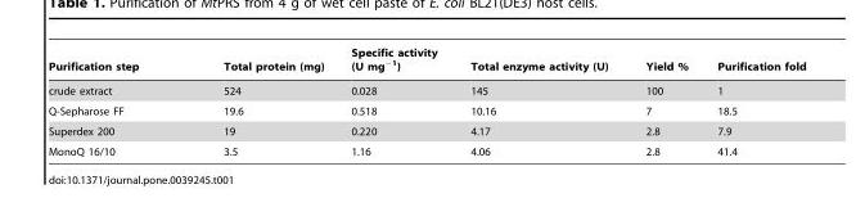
<table><thead><tr><td>Purification step</td><td>Total protein (mg)</td><td>Specific activity (U mg<sup>−1</sup>)</td><td>Total enzyme activity (U)</td><td>Yield %</td><td>Purification fold</td></tr></thead><tbody><tr><td>crude extract</td><td>524</td><td>0.028</td><td>145</td><td>100</td><td>1</td></tr><tr><td>Q-Sepharose FF</td><td>19.6</td><td>0.518</td><td>10.16</td><td>7</td><td>18.5</td></tr><tr><td>Superdex 200</td><td>19</td><td>0.220</td><td>4.17</td><td>2.8</td><td>7.9</td></tr><tr><td>MonoQ 16/10</td><td>3.5</td><td>1.16</td><td>4.06</td><td>2.8</td><td>41.4</td></tr></tbody></table>